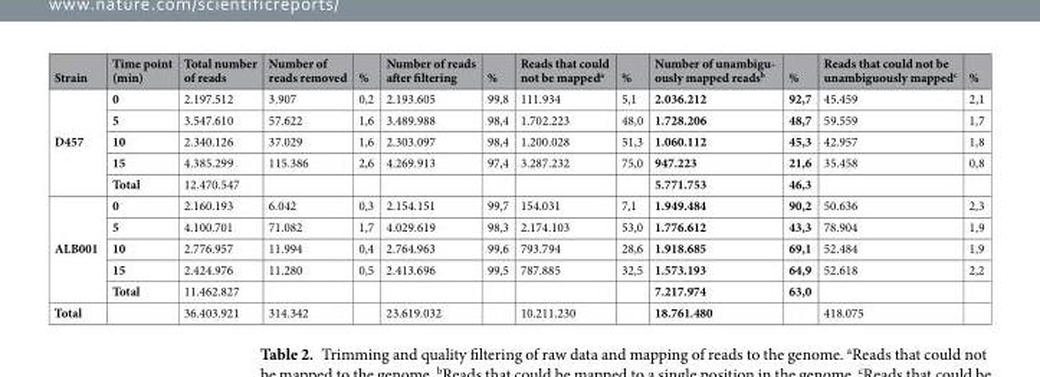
<table><thead><tr><td>Strain</td><td>Time point (min)</td><td>Total number of reads</td><td>Number of reads removed</td><td>%</td><td>Number of reads after filtering</td><td>%</td><td>Reads that could not be mapped<sup>a</sup></td><td>%</td><td>Number of unambigu- ously mapped reads<sup>b</sup></td><td>%</td><td>Reads that could not be unambiguously mapped<sup>c</sup></td><td>%</td></tr></thead><tbody><tr><td rowspan="5">D457</td><td>0</td><td>2.197.512</td><td>3.907</td><td>0,2</td><td>2.193.605</td><td>99,8</td><td>111.934</td><td>5,1</td><td>2.036.212</td><td>92,7</td><td>45.459</td><td>2,1</td></tr><tr><td>5</td><td>3.547.610</td><td>57.622</td><td>1,6</td><td>3.489.988</td><td>98,4</td><td>1.702.223</td><td>48,0</td><td>1.728.206</td><td>48,7</td><td>59.559</td><td>1,7</td></tr><tr><td>10</td><td>2.340.126</td><td>37.029</td><td>1,6</td><td>2.303.097</td><td>98,4</td><td>1.200.028</td><td>51,3</td><td>1.060.112</td><td>45,3</td><td>42.957</td><td>1,8</td></tr><tr><td>15</td><td>4.385.299</td><td>115.386</td><td>2,6</td><td>4.269.913</td><td>97,4</td><td>3.287.232</td><td>75,0</td><td>947.223</td><td>21,6</td><td>35.458</td><td>0,8</td></tr><tr><td>Total</td><td>12.470.547</td><td></td><td></td><td></td><td></td><td></td><td></td><td>5.771.753</td><td>46,3</td><td></td><td></td></tr><tr><td rowspan="5">ALB001</td><td>0</td><td>2.160.193</td><td>6.042</td><td>0,3</td><td>2.154.151</td><td>99,7</td><td>154.031</td><td>7,1</td><td>1.949.484</td><td>90,2</td><td>50.636</td><td>2,3</td></tr><tr><td>5</td><td>4.100.701</td><td>71.082</td><td>1,7</td><td>4.029.619</td><td>98,3</td><td>2.174.103</td><td>53,0</td><td>1.776.612</td><td>43,3</td><td>78.904</td><td>1,9</td></tr><tr><td>10</td><td>2.776.957</td><td>11.994</td><td>0,4</td><td>2.764.963</td><td>99,6</td><td>793.794</td><td>28,6</td><td>1.918.685</td><td>69,1</td><td>52.484</td><td>1,9</td></tr><tr><td>15</td><td>2.424.976</td><td>11.280</td><td>0,5</td><td>2.413.696</td><td>99,5</td><td>787.885</td><td>32,5</td><td>1.573.193</td><td>64,9</td><td>52.618</td><td>2,2</td></tr><tr><td>Total</td><td>11.462.827</td><td></td><td></td><td></td><td></td><td></td><td></td><td>7.217.974</td><td>63,0</td><td></td><td></td></tr><tr><td>Total</td><td></td><td>36.403.921</td><td>314.342</td><td></td><td>23.619.032</td><td></td><td>10.211.230</td><td></td><td>18.761.480</td><td></td><td>418.075</td><td></td></tr></tbody></table>